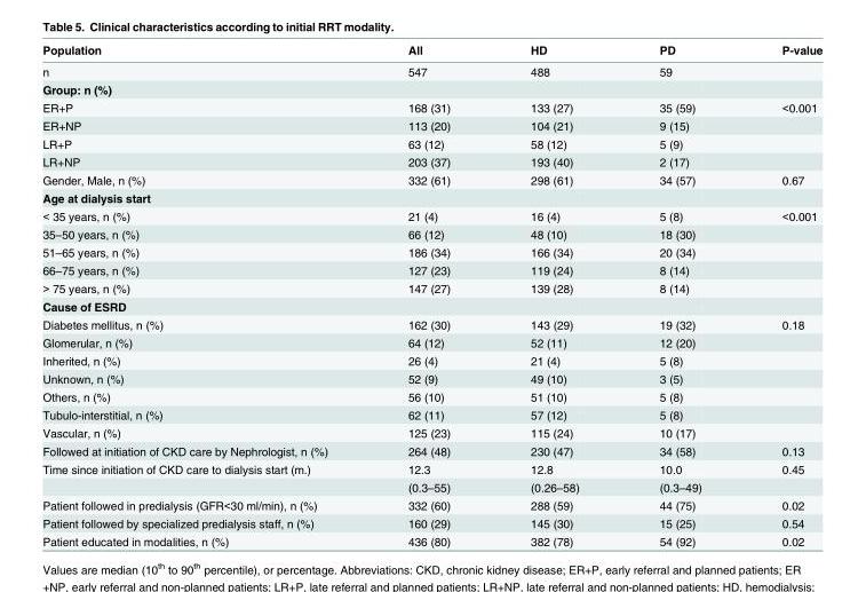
<table><thead><tr><td>Population</td><td>All</td><td>HD</td><td>PD</td><td>P-value</td></tr></thead><tbody><tr><td>n</td><td>547</td><td>488</td><td>59</td><td></td></tr><tr><td colspan="5">Group: n (%)</td></tr><tr><td>ER+P</td><td>168 (31)</td><td>133 (27)</td><td>35 (59)</td><td>&lt;0.001</td></tr><tr><td>ER+NP</td><td>113 (20)</td><td>104 (21)</td><td>9 (15)</td><td></td></tr><tr><td>LR+P</td><td>63 (12)</td><td>58 (12)</td><td>5 (9)</td><td></td></tr><tr><td>LR+NP</td><td>203 (37)</td><td>193 (40)</td><td>2 (17)</td><td></td></tr><tr><td>Gender, Male, n (%)</td><td>332 (61)</td><td>298 (61)</td><td>34 (57)</td><td>0.67</td></tr><tr><td colspan="5">Age at dialysis start</td></tr><tr><td>&lt; 35 years, n (%)</td><td>21 (4)</td><td>16 (4)</td><td>5 (8)</td><td>&lt;0.001</td></tr><tr><td>35–50 years, n (%)</td><td>66 (12)</td><td>48 (10)</td><td>18 (30)</td><td></td></tr><tr><td>51–65 years, n (%)</td><td>186 (34)</td><td>166 (34)</td><td>20 (34)</td><td></td></tr><tr><td>66–75 years, n (%)</td><td>127 (23)</td><td>119 (24)</td><td>8 (14)</td><td></td></tr><tr><td>&gt; 75 years, n (%)</td><td>147 (27)</td><td>139 (28)</td><td>8 (14)</td><td></td></tr><tr><td colspan="5">Cause of ESRD</td></tr><tr><td>Diabetes mellitus, n (%)</td><td>162 (30)</td><td>143 (29)</td><td>19 (32)</td><td>0.18</td></tr><tr><td>Glomerular, n (%)</td><td>64 (12)</td><td>52 (11)</td><td>12 (20)</td><td></td></tr><tr><td>Inherited, n (%)</td><td>26 (4)</td><td>21 (4)</td><td>5 (8)</td><td></td></tr><tr><td>Unknown, n (%)</td><td>52 (9)</td><td>49 (10)</td><td>3 (5)</td><td></td></tr><tr><td>Others, n (%)</td><td>56 (10)</td><td>51 (10)</td><td>5 (8)</td><td></td></tr><tr><td>Tubulo-interstitial, n (%)</td><td>62 (11)</td><td>57 (12)</td><td>5 (8)</td><td></td></tr><tr><td>Vascular, n (%)</td><td>125 (23)</td><td>115 (24)</td><td>10 (17)</td><td></td></tr><tr><td>Followed at initiation of CKD care by Nephrologist, n (%)</td><td>264 (48)</td><td>230 (47)</td><td>34 (58)</td><td>0.13</td></tr><tr><td rowspan="2">Time since initiation of CKD care to dialysis start (m.)</td><td>12.3</td><td>12.8</td><td>10.0</td><td>0.45</td></tr><tr><td>(0.3–55)</td><td>(0.26–58)</td><td>(0.3–49)</td><td></td></tr><tr><td>Patient followed in predialysis (GFR&lt;30 ml/min), n (%)</td><td>332 (60)</td><td>288 (59)</td><td>44 (75)</td><td>0.02</td></tr><tr><td>Patient followed by specialized predialysis staff, n (%)</td><td>160 (29)</td><td>145 (30)</td><td>15 (25)</td><td>0.54</td></tr><tr><td>Patient educated in modalities, n (%)</td><td>436 (80)</td><td>382 (78)</td><td>54 (92)</td><td>0.02</td></tr></tbody></table>